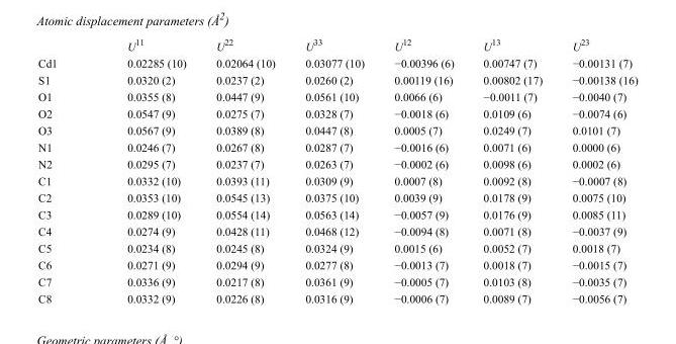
<table><thead><tr><td></td><td>U<sup>11</sup></td><td>U<sup>22</sup></td><td>U<sup>33</sup></td><td>U<sup>12</sup></td><td>U<sup>13</sup></td><td>U<sup>23</sup></td></tr></thead><tbody><tr><td>Cd1</td><td>0.02285 (10)</td><td>0.02064 (10)</td><td>0.03077 (10)</td><td>−0.00396 (6)</td><td>0.00747 (7)</td><td>−0.00131 (7)</td></tr><tr><td>S1</td><td>0.0320 (2)</td><td>0.0237 (2)</td><td>0.0260 (2)</td><td>0.00119 (16)</td><td>0.00802 (17)</td><td>−0.00138 (16)</td></tr><tr><td>O1</td><td>0.0355 (8)</td><td>0.0447 (9)</td><td>0.0561 (10)</td><td>0.0066 (6)</td><td>−0.0011 (7)</td><td>−0.0040 (7)</td></tr><tr><td>O2</td><td>0.0547 (9)</td><td>0.0275 (7)</td><td>0.0328 (7)</td><td>−0.0018 (6)</td><td>0.0109 (6)</td><td>−0.0074 (6)</td></tr><tr><td>O3</td><td>0.0567 (9)</td><td>0.0389 (8)</td><td>0.0447 (8)</td><td>0.0005 (7)</td><td>0.0249 (7)</td><td>0.0101 (7)</td></tr><tr><td>N1</td><td>0.0246 (7)</td><td>0.0267 (8)</td><td>0.0287 (7)</td><td>−0.0016 (6)</td><td>0.0071 (6)</td><td>0.0000 (6)</td></tr><tr><td>N2</td><td>0.0295 (7)</td><td>0.0237 (7)</td><td>0.0263 (7)</td><td>−0.0002 (6)</td><td>0.0098 (6)</td><td>0.0002 (6)</td></tr><tr><td>C1</td><td>0.0332 (10)</td><td>0.0393 (11)</td><td>0.0309 (9)</td><td>0.0007 (8)</td><td>0.0092 (8)</td><td>−0.0007 (8)</td></tr><tr><td>C2</td><td>0.0353 (10)</td><td>0.0545 (13)</td><td>0.0375 (10)</td><td>0.0039 (9)</td><td>0.0178 (9)</td><td>0.0075 (10)</td></tr><tr><td>C3</td><td>0.0289 (10)</td><td>0.0554 (14)</td><td>0.0563 (14)</td><td>−0.0057 (9)</td><td>0.0176 (9)</td><td>0.0085 (11)</td></tr><tr><td>C4</td><td>0.0274 (9)</td><td>0.0428 (11)</td><td>0.0468 (12)</td><td>−0.0094 (8)</td><td>0.0071 (8)</td><td>−0.0037 (9)</td></tr><tr><td>C5</td><td>0.0234 (8)</td><td>0.0245 (8)</td><td>0.0324 (9)</td><td>0.0015 (6)</td><td>0.0052 (7)</td><td>0.0018 (7)</td></tr><tr><td>C6</td><td>0.0271 (9)</td><td>0.0294 (9)</td><td>0.0277 (8)</td><td>−0.0013 (7)</td><td>0.0018 (7)</td><td>−0.0015 (7)</td></tr><tr><td>C7</td><td>0.0336 (9)</td><td>0.0217 (8)</td><td>0.0361 (9)</td><td>−0.0005 (7)</td><td>0.0103 (8)</td><td>−0.0035 (7)</td></tr><tr><td>C8</td><td>0.0332 (9)</td><td>0.0226 (8)</td><td>0.0316 (9)</td><td>−0.0006 (7)</td><td>0.0089 (7)</td><td>−0.0056 (7)</td></tr></tbody></table>